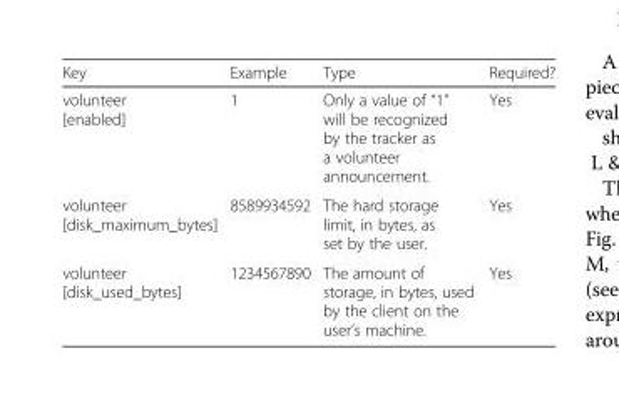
<table><thead><tr><td>Key</td><td>Example</td><td>Type</td><td>Required?</td></tr></thead><tbody><tr><td>volunteer [enabled]</td><td>1</td><td>Only a value of “1” will be recognized by the tracker as a volunteer announcement.</td><td>Yes</td></tr><tr><td>volunteer [disk_maximum_bytes]</td><td>8589934592</td><td>The hard storage limit, in bytes, as set by the user.</td><td>Yes</td></tr><tr><td>volunteer [disk_used_bytes]</td><td>1234567890</td><td>The amount of storage, in bytes, used by the client on the user’s machine.</td><td>Yes</td></tr></tbody></table>